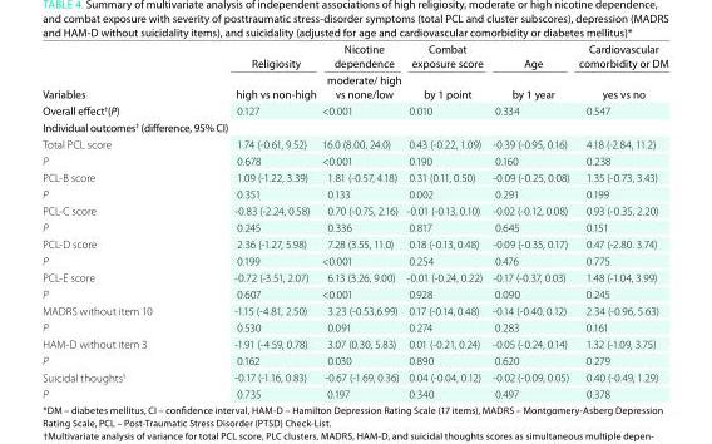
<table><thead><tr><td></td><td>Religiosity</td><td>Nicotine dependence</td><td>Combat exposure score</td><td>Age</td><td>Cardiovascular comorbidity or DM</td></tr></thead><tbody><tr><td>Variables</td><td>high vs non-high</td><td>moderate/ high vs none/low</td><td>by 1 point</td><td>by 1 year</td><td>yes vs no</td></tr><tr><td>Overall effect<sup>†</sup>(P)</td><td>0.127</td><td>&lt;0.001</td><td>0.010</td><td>0.334</td><td>0.547</td></tr><tr><td colspan="6">Individual outcomes<sup>‡</sup> (difference, 95% CI)</td></tr><tr><td>Total PCL score</td><td>1.74 (-0.61, 9.52)</td><td>16.0 (8.00, 24.0)</td><td>0.43 (-0.22, 1.09)</td><td>-0.39 (-0.95, 0.16)</td><td>4.18 (-2.84, 11.2)</td></tr><tr><td>P</td><td>0.678</td><td>&lt;0.001</td><td>0.190</td><td>0.160</td><td>0.238</td></tr><tr><td>PCL-B score</td><td>1.09 (-1.22, 3.39)</td><td>1.81 (-0.57, 4.18)</td><td>0.31 (0.11, 0.50)</td><td>-0.09 (-0.25, 0.08)</td><td>1.35 (-0.73, 3.43)</td></tr><tr><td>P</td><td>0.351</td><td>0.133</td><td>0.002</td><td>0.291</td><td>0.199</td></tr><tr><td>PCL-C score</td><td>-0.83 (-2.24, 0.58)</td><td>0.70 (-0.75, 2.16)</td><td>-0.01 (-0.13, 0.10)</td><td>-0.02 (-0.12, 0.08)</td><td>0.93 (-0.35, 2.20)</td></tr><tr><td>P</td><td>0.245</td><td>0.336</td><td>0.817</td><td>0.645</td><td>0.151</td></tr><tr><td>PCL-D score</td><td>2.36 (-1.27, 5.98)</td><td>7.28 (3.55, 11.0)</td><td>0.18 (-0.13, 0.48)</td><td>-0.09 (-0.35, 0.17)</td><td>0.47 (-2.80. 3.74)</td></tr><tr><td>P</td><td>0.199</td><td>&lt;0.001</td><td>0.254</td><td>0.476</td><td>0.775</td></tr><tr><td>PCL-E score</td><td>-0.72 (-3.51, 2.07)</td><td>6.13 (3.26, 9.00)</td><td>-0.01 (-0.24, 0.22)</td><td>-0.17 (-0.37, 0.03)</td><td>1.48 (-1.04, 3.99)</td></tr><tr><td>P</td><td>0.607</td><td>&lt;0.001</td><td>0.928</td><td>0.090</td><td>0.245</td></tr><tr><td>MADRS without item 10</td><td>-1.15 (-4.81, 2.50)</td><td>3.23 (-0.53,6.99)</td><td>0.17 (-0.14, 0.48)</td><td>-0.14 (-0.40, 0.12)</td><td>2.34 (-0.96, 5.63)</td></tr><tr><td>P</td><td>0.530</td><td>0.091</td><td>0.274</td><td>0.283</td><td>0.161</td></tr><tr><td>HAM-D without item 3</td><td>-1.91 (-4.59, 0.78)</td><td>3.07 (0.30, 5.83)</td><td>0.01 (-0.21, 0.24)</td><td>-0.05 (-0.24, 0.14)</td><td>1.32 (-1.09, 3.75)</td></tr><tr><td>P</td><td>0.162</td><td>0.030</td><td>0.890</td><td>0.620</td><td>0.279</td></tr><tr><td>Suicidal thoughts<sup>§</sup></td><td>-0.17 (-1.16, 0.83)</td><td>-0.67 (-1.69, 0.36)</td><td>0.04 (-0.04, 0.12)</td><td>-0.02 (-0.09, 0.05)</td><td>0.40 (-0.49, 1.29)</td></tr><tr><td>P</td><td>0.735</td><td>0.197</td><td>0.340</td><td>0.497</td><td>0.378</td></tr></tbody></table>